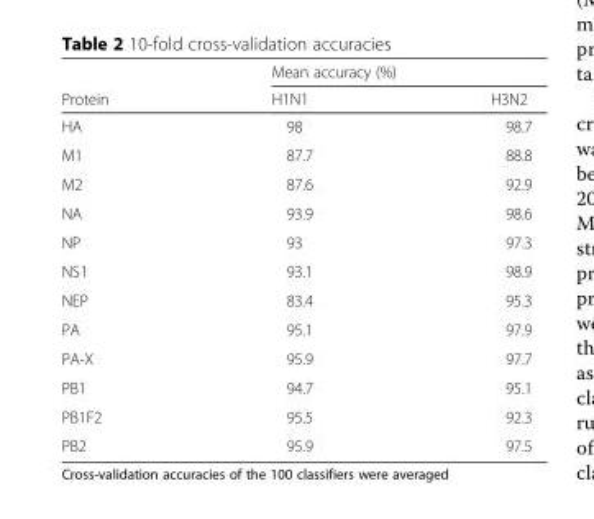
<table><thead><tr><td rowspan="2">Protein</td><td colspan="2">Mean accuracy (%)</td></tr><tr><td>H1N1</td><td>H3N2</td></tr></thead><tbody><tr><td>HA</td><td>98</td><td>98.7</td></tr><tr><td>M1</td><td>87.7</td><td>88.8</td></tr><tr><td>M2</td><td>87.6</td><td>92.9</td></tr><tr><td>NA</td><td>93.9</td><td>98.6</td></tr><tr><td>NP</td><td>93</td><td>97.3</td></tr><tr><td>NS1</td><td>93.1</td><td>98.9</td></tr><tr><td>NEP</td><td>83.4</td><td>95.3</td></tr><tr><td>PA</td><td>95.1</td><td>97.9</td></tr><tr><td>PA-X</td><td>95.9</td><td>97.7</td></tr><tr><td>PB1</td><td>94.7</td><td>95.1</td></tr><tr><td>PB1F2</td><td>95.5</td><td>92.3</td></tr><tr><td>PB2</td><td>95.9</td><td>97.5</td></tr></tbody></table>